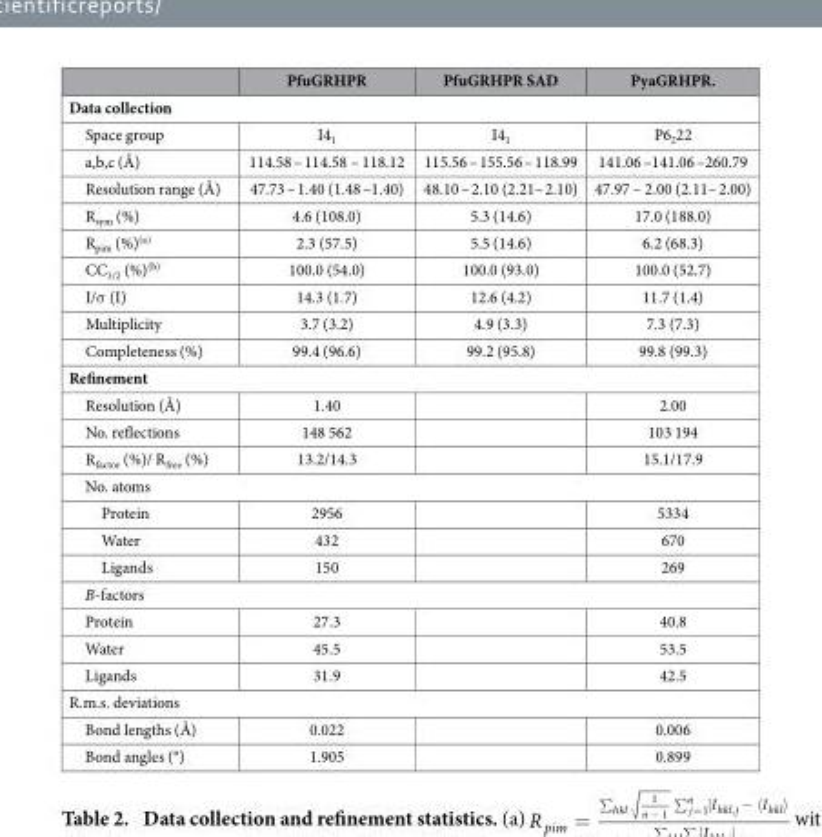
<table><thead><tr><td></td><td>PfuGRHPR</td><td>PfuGRHPR SAD</td><td>PyaGRHPR.</td></tr></thead><tbody><tr><td colspan="4">Data collection</td></tr><tr><td>Space group</td><td>I4<sub>1</sub></td><td>I4<sub>1</sub></td><td>P6<sub>2</sub>22</td></tr><tr><td>a,b,c (Å)</td><td>114.58 – 114.58 – 118.12</td><td>115.56 – 155.56 – 118.99</td><td>141.06 –141.06 –260.79</td></tr><tr><td>Resolution range (Å)</td><td>47.73 – 1.40 (1.48 –1.40)</td><td>48.10 – 2.10 (2.21– 2.10)</td><td>47.97 – 2.00 (2.11– 2.00)</td></tr><tr><td>R<sub>sym</sub> (%)</td><td>4.6 (108.0)</td><td>5.3 (14.6)</td><td>17.0 (188.0)</td></tr><tr><td>R<sub>pim</sub> (%)<sup>(a)</sup></td><td>2.3 (57.5)</td><td>5.5 (14.6)</td><td>6.2 (68.3)</td></tr><tr><td>CC<sub>1/2</sub> (%)<sup>(b)</sup></td><td>100.0 (54.0)</td><td>100.0 (93.0)</td><td>100.0 (52.7)</td></tr><tr><td>I/σ (I)</td><td>14.3 (1.7)</td><td>12.6 (4.2)</td><td>11.7 (1.4)</td></tr><tr><td>Multiplicity</td><td>3.7 (3.2)</td><td>4.9 (3.3)</td><td>7.3 (7.3)</td></tr><tr><td>Completeness (%)</td><td>99.4 (96.6)</td><td>99.2 (95.8)</td><td>99.8 (99.3)</td></tr><tr><td colspan="4">Refinement</td></tr><tr><td>Resolution (Å)</td><td>1.40</td><td></td><td>2.00</td></tr><tr><td>No. reflections</td><td>148 562</td><td></td><td>103 194</td></tr><tr><td>R<sub>factor</sub> (%)/ R<sub>free</sub> (%)</td><td>13.2/14.3</td><td></td><td>15.1/17.9</td></tr><tr><td colspan="4">No. atoms</td></tr><tr><td>Protein</td><td>2956</td><td></td><td>5334</td></tr><tr><td>Water</td><td>432</td><td></td><td>670</td></tr><tr><td>Ligands</td><td>150</td><td></td><td>269</td></tr><tr><td colspan="4">B-factors</td></tr><tr><td>Protein</td><td>27.3</td><td></td><td>40.8</td></tr><tr><td>Water</td><td>45.5</td><td></td><td>53.5</td></tr><tr><td>Ligands</td><td>31.9</td><td></td><td>42.5</td></tr><tr><td colspan="4">R.m.s. deviations</td></tr><tr><td>Bond lengths (Å)</td><td>0.022</td><td></td><td>0.006</td></tr><tr><td>Bond angles (°)</td><td>1.905</td><td></td><td>0.899</td></tr></tbody></table>